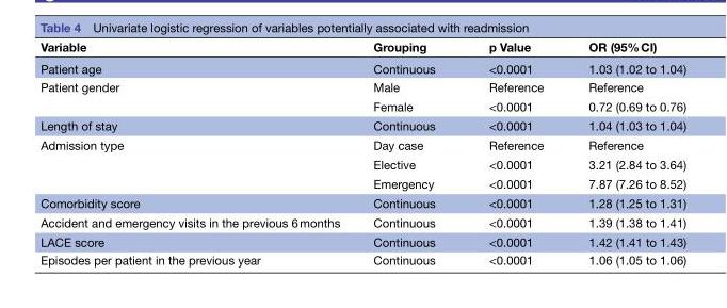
<table><thead><tr><td>Variable</td><td>Grouping</td><td>p Value</td><td>OR (95% CI)</td></tr></thead><tbody><tr><td>Patient age</td><td>Continuous</td><td>&lt;0.0001</td><td>1.03 (1.02 to 1.04)</td></tr><tr><td rowspan="2">Patient gender</td><td>Male</td><td>Reference</td><td>Reference</td></tr><tr><td>Female</td><td>&lt;0.0001</td><td>0.72 (0.69 to 0.76)</td></tr><tr><td>Length of stay</td><td>Continuous</td><td>&lt;0.0001</td><td>1.04 (1.03 to 1.04)</td></tr><tr><td rowspan="3">Admission type</td><td>Day case</td><td>Reference</td><td>Reference</td></tr><tr><td>Elective</td><td>&lt;0.0001</td><td>3.21 (2.84 to 3.64)</td></tr><tr><td>Emergency</td><td>&lt;0.0001</td><td>7.87 (7.26 to 8.52)</td></tr><tr><td>Comorbidity score</td><td>Continuous</td><td>&lt;0.0001</td><td>1.28 (1.25 to 1.31)</td></tr><tr><td>Accident and emergency visits in the previous 6 months</td><td>Continuous</td><td>&lt;0.0001</td><td>1.39 (1.38 to 1.41)</td></tr><tr><td>LACE score</td><td>Continuous</td><td>&lt;0.0001</td><td>1.42 (1.41 to 1.43)</td></tr><tr><td>Episodes per patient in the previous year</td><td>Continuous</td><td>&lt;0.0001</td><td>1.06 (1.05 to 1.06)</td></tr></tbody></table>